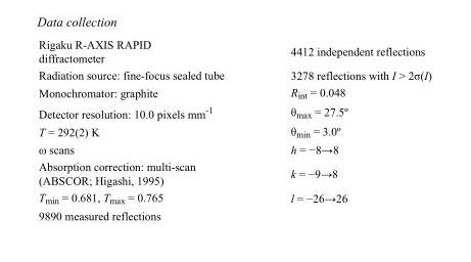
<table><tbody><tr><td>Rigaku R-AXIS RAPID diffractometer</td><td>4412 independent reflections</td></tr><tr><td>Radiation source: fine-focus sealed tube</td><td>3278 reflections with I &gt; 2σ(I)</td></tr><tr><td>Monochromator: graphite</td><td>R<sub>int</sub> = 0.048</td></tr><tr><td>Detector resolution: 10.0 pixels mm<sup>-1</sup></td><td>θ<sub>max</sub> = 27.5º</td></tr><tr><td>T = 292(2) K</td><td>θ<sub>min</sub> = 3.0º</td></tr><tr><td>ω scans</td><td>h = −8→8</td></tr><tr><td>Absorption correction: multi-scan (ABSCOR; Higashi, 1995)</td><td>k = −9→8</td></tr><tr><td>T<sub>min</sub> = 0.681, T<sub>max</sub> = 0.765</td><td>l = −26→26</td></tr><tr><td>9890 measured reflections</td><td></td></tr></tbody></table>